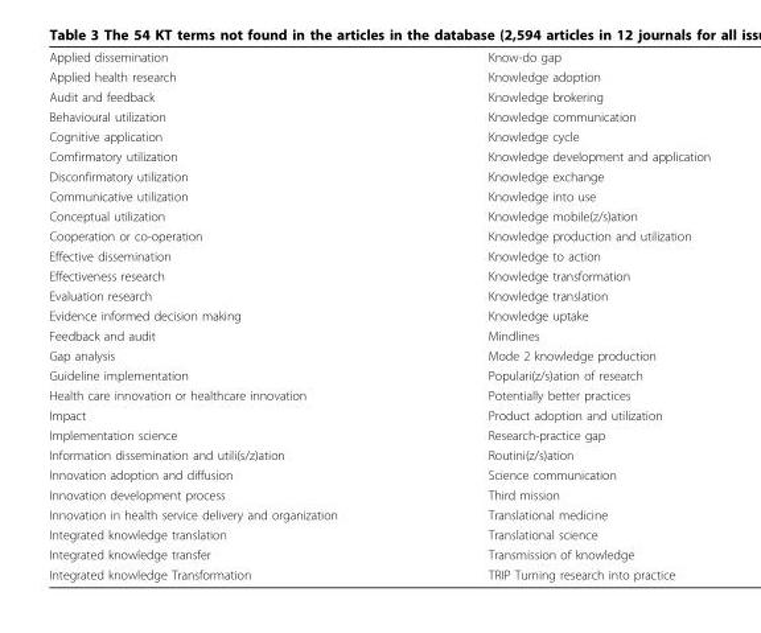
<table><tbody><tr><td>Applied dissemination</td><td>Know-do gap</td></tr><tr><td>Applied health research</td><td>Knowledge adoption</td></tr><tr><td>Audit and feedback</td><td>Knowledge brokering</td></tr><tr><td>Behavioural utilization</td><td>Knowledge communication</td></tr><tr><td>Cognitive application</td><td>Knowledge cycle</td></tr><tr><td>Comfirmatory utilization</td><td>Knowledge development and application</td></tr><tr><td>Disconfirmatory utilization</td><td>Knowledge exchange</td></tr><tr><td>Communicative utilization</td><td>Knowledge into use</td></tr><tr><td>Conceptual utilization</td><td>Knowledge mobile(z/s)ation</td></tr><tr><td>Cooperation or co-operation</td><td>Knowledge production and utilization</td></tr><tr><td>Effective dissemination</td><td>Knowledge to action</td></tr><tr><td>Effectiveness research</td><td>Knowledge transformation</td></tr><tr><td>Evaluation research</td><td>Knowledge translation</td></tr><tr><td>Evidence informed decision making</td><td>Knowledge uptake</td></tr><tr><td>Feedback and audit</td><td>Mindlines</td></tr><tr><td>Gap analysis</td><td>Mode 2 knowledge production</td></tr><tr><td>Guideline implementation</td><td>Populari(z/s)ation of research</td></tr><tr><td>Health care innovation or healthcare innovation</td><td>Potentially better practices</td></tr><tr><td>Impact</td><td>Product adoption and utilization</td></tr><tr><td>Implementation science</td><td>Research-practice gap</td></tr><tr><td>Information dissemination and utili(s/z)ation</td><td>Routini(z/s)ation</td></tr><tr><td>Innovation adoption and diffusion</td><td>Science communication</td></tr><tr><td>Innovation development process</td><td>Third mission</td></tr><tr><td>Innovation in health service delivery and organization</td><td>Translational medicine</td></tr><tr><td>Integrated knowledge translation</td><td>Translational science</td></tr><tr><td>Integrated knowledge transfer</td><td>Transmission of knowledge</td></tr><tr><td>Integrated knowledge Transformation</td><td>TRIP Turning research into practice</td></tr></tbody></table>